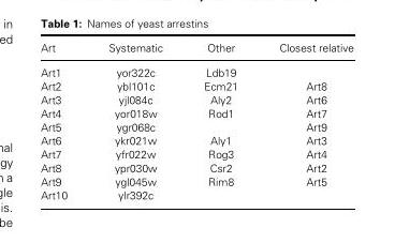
<table><thead><tr><td>Art</td><td>Systematic</td><td>Other</td><td>Closest relative</td></tr></thead><tbody><tr><td>Art1</td><td>yor322c</td><td>Ldb19</td><td></td></tr><tr><td>Art2</td><td>ybl101c</td><td>Ecm21</td><td>Art8</td></tr><tr><td>Art3</td><td>yjl084c</td><td>Aly2</td><td>Art6</td></tr><tr><td>Art4</td><td>yor018w</td><td>Rod1</td><td>Art7</td></tr><tr><td>Art5</td><td>ygr068c</td><td></td><td>Art9</td></tr><tr><td>Art6</td><td>ykr021w</td><td>Aly1</td><td>Art3</td></tr><tr><td>Art7</td><td>yfr022w</td><td>Rog3</td><td>Art4</td></tr><tr><td>Art8</td><td>ypr030w</td><td>Csr2</td><td>Art2</td></tr><tr><td>Art9</td><td>ygl045w</td><td>Rim8</td><td>Art5</td></tr><tr><td>Art10</td><td>ylr392c</td><td></td><td></td></tr></tbody></table>